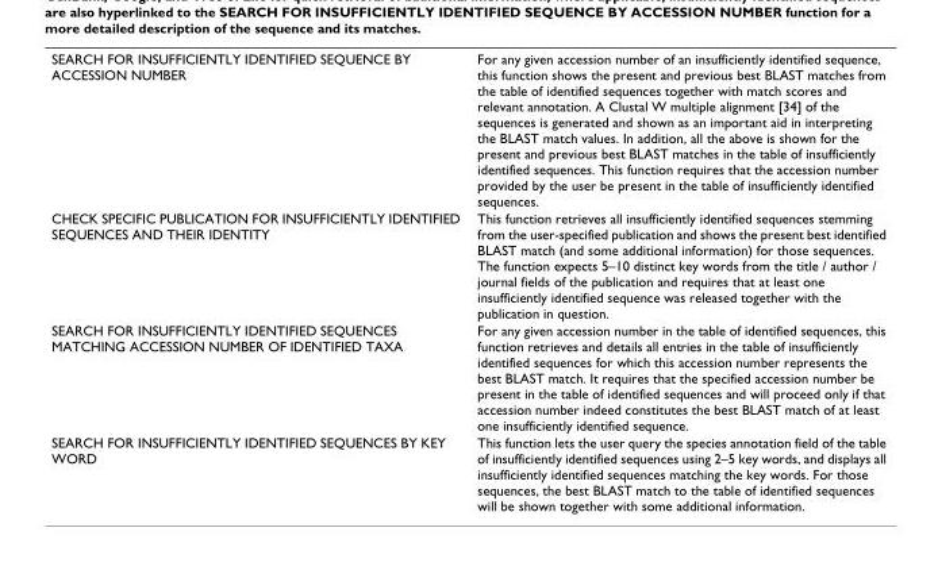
<table><tbody><tr><td>SEARCH FOR INSUFFICIENTLY IDENTIFIED SEQUENCE BY ACCESSION NUMBER</td><td>For any given accession number of an insufficiently identified sequence, this function shows the present and previous best BLAST matches from the table of identified sequences together with match scores and relevant annotation. A Clustal W multiple alignment [34] of the sequences is generated and shown as an important aid in interpreting the BLAST match values. In addition, all the above is shown for the present and previous best BLAST matches in the table of insufficiently identified sequences. This function requires that the accession number provided by the user be present in the table of insufficiently identified sequences.</td></tr><tr><td>CHECK SPECIFIC PUBLICATION FOR INSUFFICIENTLY IDENTIFIED SEQUENCES AND THEIR IDENTITY</td><td>This function retrieves all insufficiently identified sequences stemming from the user-specified publication and shows the present best identified BLAST match (and some additional information) for those sequences. The function expects 5–10 distinct key words from the title / author / journal fields of the publication and requires that at least one insufficiently identified sequence was released together with the publication in question.</td></tr><tr><td>SEARCH FOR INSUFFICIENTLY IDENTIFIED SEQUENCES MATCHING ACCESSION NUMBER OF IDENTIFIED TAXA</td><td>For any given accession number in the table of identified sequences, this function retrieves and details all entries in the table of insufficiently identified sequences for which this accession number represents the best BLAST match. It requires that the specified accession number be present in the table of identified sequences and will proceed only if that accession number indeed constitutes the best BLAST match of at least one insufficiently identified sequence.</td></tr><tr><td>SEARCH FOR INSUFFICIENTLY IDENTIFIED SEQUENCES BY KEY WORD</td><td>This function lets the user query the species annotation field of the table of insufficiently identified sequences using 2–5 key words, and displays all insufficiently identified sequences matching the key words. For those sequences, the best BLAST match to the table of identified sequences will be shown together with some additional information.</td></tr></tbody></table>